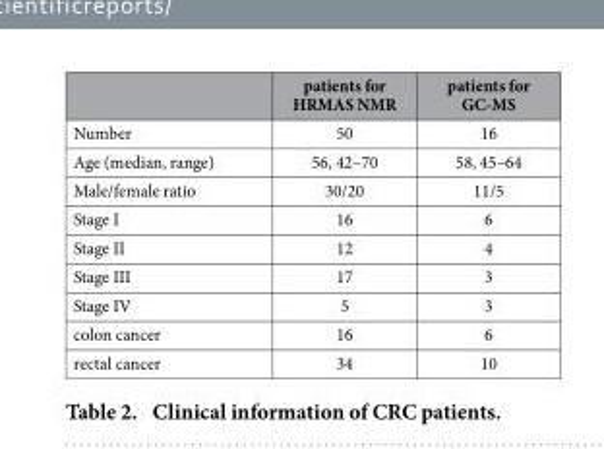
<table><thead><tr><td></td><td>patients for HRMAS NMR</td><td>patients for GC-MS</td></tr></thead><tbody><tr><td>Number</td><td>50</td><td>16</td></tr><tr><td>Age (median, range)</td><td>56, 42–70</td><td>58, 45–64</td></tr><tr><td>Male/female ratio</td><td>30/20</td><td>11/5</td></tr><tr><td>Stage I</td><td>16</td><td>6</td></tr><tr><td>Stage II</td><td>12</td><td>4</td></tr><tr><td>Stage III</td><td>17</td><td>3</td></tr><tr><td>Stage IV</td><td>5</td><td>3</td></tr><tr><td>colon cancer</td><td>16</td><td>6</td></tr><tr><td>rectal cancer</td><td>34</td><td>10</td></tr></tbody></table>